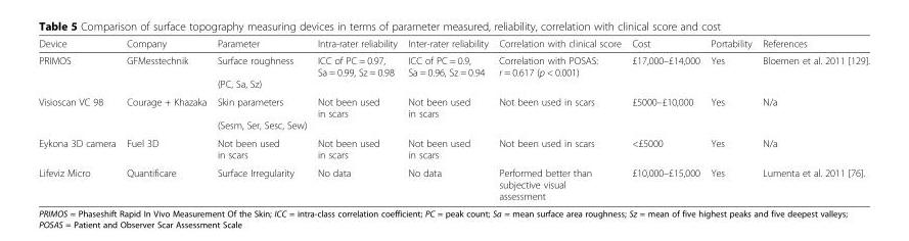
<table><thead><tr><td>Device</td><td>Company</td><td>Parameter</td><td>Intra-rater reliability</td><td>Inter-rater reliability</td><td>Correlation with clinical score</td><td>Cost</td><td>Portability</td><td>References</td></tr></thead><tbody><tr><td>PRIMOS</td><td>GFMesstechnik</td><td>Surface roughness (PC, Sa, Sz)</td><td>ICC of PC = 0.97, Sa = 0.99, Sz = 0.98</td><td>ICC of PC = 0.9, Sa = 0.96, Sz = 0.94</td><td>Correlation with POSAS: r = 0.617 (p &lt; 0.001)</td><td>£17,000–£14,000</td><td>Yes</td><td>Bloemen et al. 2011 [129].</td></tr><tr><td>Visioscan VC 98</td><td>Courage + Khazaka</td><td>Skin parameters (Sesm, Ser, Sesc, Sew)</td><td>Not been used in scars</td><td>Not been used in scars</td><td>Not been used in scars</td><td>£5000–£10,000</td><td>Yes</td><td>N/a</td></tr><tr><td>Eykona 3D camera</td><td>Fuel 3D</td><td>Not been used in scars</td><td>Not been used in scars</td><td>Not been used in scars</td><td>Not been used in scars</td><td>&lt;£5000</td><td>Yes</td><td>N/a</td></tr><tr><td>Lifeviz Micro</td><td>Quantificare</td><td>Surface Irregularity</td><td>No data</td><td>No data</td><td>Performed better than subjective visual assessment</td><td>£10,000–£15,000</td><td>Yes</td><td>Lumenta et al. 2011 [76].</td></tr></tbody></table>